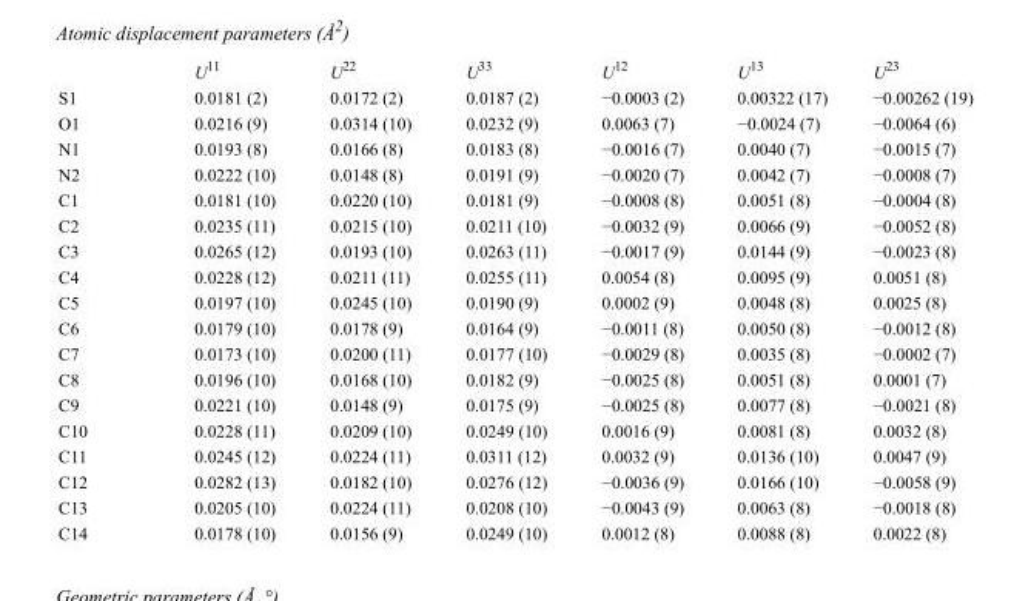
<table><thead><tr><td></td><td>U<sup>11</sup></td><td>U<sup>22</sup></td><td>U<sup>33</sup></td><td>U<sup>12</sup></td><td>U<sup>13</sup></td><td>U<sup>23</sup></td></tr></thead><tbody><tr><td>S1</td><td>0.0181 (2)</td><td>0.0172 (2)</td><td>0.0187 (2)</td><td>−0.0003 (2)</td><td>0.00322 (17)</td><td>−0.00262 (19)</td></tr><tr><td>O1</td><td>0.0216 (9)</td><td>0.0314 (10)</td><td>0.0232 (9)</td><td>0.0063 (7)</td><td>−0.0024 (7)</td><td>−0.0064 (6)</td></tr><tr><td>N1</td><td>0.0193 (8)</td><td>0.0166 (8)</td><td>0.0183 (8)</td><td>−0.0016 (7)</td><td>0.0040 (7)</td><td>−0.0015 (7)</td></tr><tr><td>N2</td><td>0.0222 (10)</td><td>0.0148 (8)</td><td>0.0191 (9)</td><td>−0.0020 (7)</td><td>0.0042 (7)</td><td>−0.0008 (7)</td></tr><tr><td>C1</td><td>0.0181 (10)</td><td>0.0220 (10)</td><td>0.0181 (9)</td><td>−0.0008 (8)</td><td>0.0051 (8)</td><td>−0.0004 (8)</td></tr><tr><td>C2</td><td>0.0235 (11)</td><td>0.0215 (10)</td><td>0.0211 (10)</td><td>−0.0032 (9)</td><td>0.0066 (9)</td><td>−0.0052 (8)</td></tr><tr><td>C3</td><td>0.0265 (12)</td><td>0.0193 (10)</td><td>0.0263 (11)</td><td>−0.0017 (9)</td><td>0.0144 (9)</td><td>−0.0023 (8)</td></tr><tr><td>C4</td><td>0.0228 (12)</td><td>0.0211 (11)</td><td>0.0255 (11)</td><td>0.0054 (8)</td><td>0.0095 (9)</td><td>0.0051 (8)</td></tr><tr><td>C5</td><td>0.0197 (10)</td><td>0.0245 (10)</td><td>0.0190 (9)</td><td>0.0002 (9)</td><td>0.0048 (8)</td><td>0.0025 (8)</td></tr><tr><td>C6</td><td>0.0179 (10)</td><td>0.0178 (9)</td><td>0.0164 (9)</td><td>−0.0011 (8)</td><td>0.0050 (8)</td><td>−0.0012 (8)</td></tr><tr><td>C7</td><td>0.0173 (10)</td><td>0.0200 (11)</td><td>0.0177 (10)</td><td>−0.0029 (8)</td><td>0.0035 (8)</td><td>−0.0002 (7)</td></tr><tr><td>C8</td><td>0.0196 (10)</td><td>0.0168 (10)</td><td>0.0182 (9)</td><td>−0.0025 (8)</td><td>0.0051 (8)</td><td>0.0001 (7)</td></tr><tr><td>C9</td><td>0.0221 (10)</td><td>0.0148 (9)</td><td>0.0175 (9)</td><td>−0.0025 (8)</td><td>0.0077 (8)</td><td>−0.0021 (8)</td></tr><tr><td>C10</td><td>0.0228 (11)</td><td>0.0209 (10)</td><td>0.0249 (10)</td><td>0.0016 (9)</td><td>0.0081 (8)</td><td>0.0032 (8)</td></tr><tr><td>C11</td><td>0.0245 (12)</td><td>0.0224 (11)</td><td>0.0311 (12)</td><td>0.0032 (9)</td><td>0.0136 (10)</td><td>0.0047 (9)</td></tr><tr><td>C12</td><td>0.0282 (13)</td><td>0.0182 (10)</td><td>0.0276 (12)</td><td>−0.0036 (9)</td><td>0.0166 (10)</td><td>−0.0058 (9)</td></tr><tr><td>C13</td><td>0.0205 (10)</td><td>0.0224 (11)</td><td>0.0208 (10)</td><td>−0.0043 (9)</td><td>0.0063 (8)</td><td>−0.0018 (8)</td></tr><tr><td>C14</td><td>0.0178 (10)</td><td>0.0156 (9)</td><td>0.0249 (10)</td><td>0.0012 (8)</td><td>0.0088 (8)</td><td>0.0022 (8)</td></tr></tbody></table>